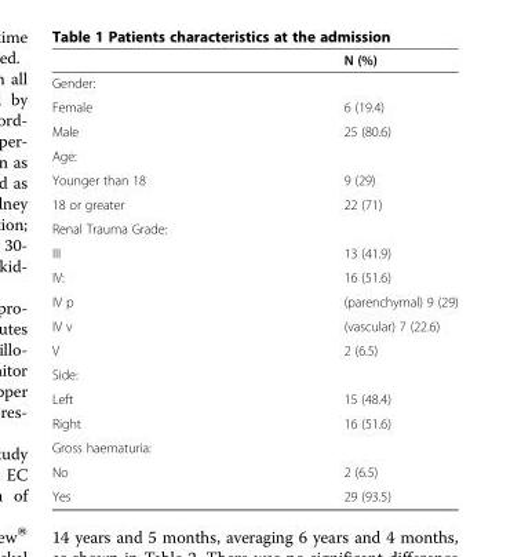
<table><thead><tr><td></td><td>N (%)</td></tr></thead><tbody><tr><td colspan="2">Gender:</td></tr><tr><td>Female</td><td>6 (19.4)</td></tr><tr><td>Male</td><td>25 (80.6)</td></tr><tr><td colspan="2">Age:</td></tr><tr><td>Younger than 18</td><td>9 (29)</td></tr><tr><td>18 or greater</td><td>22 (71)</td></tr><tr><td colspan="2">Renal Trauma Grade:</td></tr><tr><td>III</td><td>13 (41.9)</td></tr><tr><td>IV:</td><td>16 (51.6)</td></tr><tr><td>IV p</td><td>(parenchymal) 9 (29)</td></tr><tr><td>IV v</td><td>(vascular) 7 (22.6)</td></tr><tr><td>V</td><td>2 (6.5)</td></tr><tr><td colspan="2">Side:</td></tr><tr><td>Left</td><td>15 (48.4)</td></tr><tr><td>Right</td><td>16 (51.6)</td></tr><tr><td colspan="2">Gross haematuria:</td></tr><tr><td>No</td><td>2 (6.5)</td></tr><tr><td>Yes</td><td>29 (93.5)</td></tr></tbody></table>